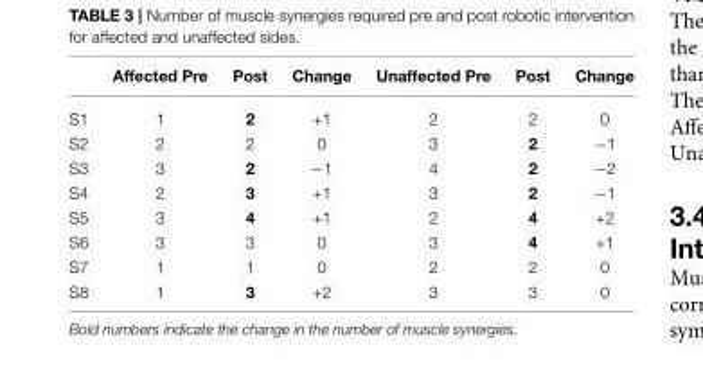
<table><thead><tr><td></td><td>Affected Pre</td><td>Post</td><td>Change</td><td>Unaffected Pre</td><td>Post</td><td>Change</td></tr></thead><tbody><tr><td>S1</td><td>1</td><td>2</td><td>+1</td><td>2</td><td>2</td><td>0</td></tr><tr><td>S2</td><td>2</td><td>2</td><td>0</td><td>3</td><td>2</td><td>−1</td></tr><tr><td>S3</td><td>3</td><td>2</td><td>−1</td><td>4</td><td>2</td><td>−2</td></tr><tr><td>S4</td><td>2</td><td>3</td><td>+1</td><td>3</td><td>2</td><td>−1</td></tr><tr><td>S5</td><td>3</td><td>4</td><td>+1</td><td>2</td><td>4</td><td>+2</td></tr><tr><td>S6</td><td>3</td><td>3</td><td>0</td><td>3</td><td>4</td><td>+1</td></tr><tr><td>S7</td><td>1</td><td>1</td><td>0</td><td>2</td><td>2</td><td>0</td></tr><tr><td>S8</td><td>1</td><td>3</td><td>+2</td><td>3</td><td>3</td><td>0</td></tr></tbody></table>